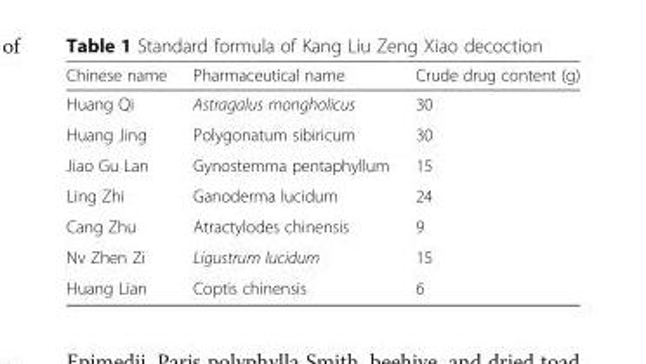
<table><thead><tr><td>Chinese name</td><td>Pharmaceutical name</td><td>Crude drug content (g)</td></tr></thead><tbody><tr><td>Huang Qi</td><td>Astragalus mongholicus</td><td>30</td></tr><tr><td>Huang Jing</td><td>Polygonatum sibiricum</td><td>30</td></tr><tr><td>Jiao Gu Lan</td><td>Gynostemma pentaphyllum</td><td>15</td></tr><tr><td>Ling Zhi</td><td>Ganoderma lucidum</td><td>24</td></tr><tr><td>Cang Zhu</td><td>Atractylodes chinensis</td><td>9</td></tr><tr><td>Nv Zhen Zi</td><td>Ligustrum lucidum</td><td>15</td></tr><tr><td>Huang Lian</td><td>Coptis chinensis</td><td>6</td></tr></tbody></table>